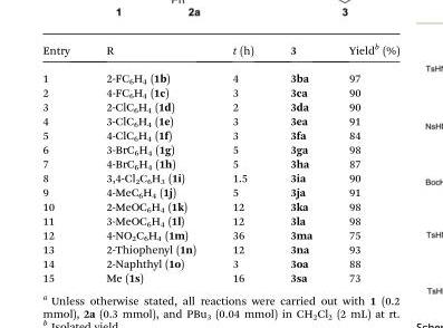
<table><thead><tr><td>Entry</td><td>R</td><td>t (h)</td><td>3</td><td>Yield<sup>b</sup> (%)</td></tr></thead><tbody><tr><td>1</td><td>2-FC<sub>6</sub>H<sub>4</sub> (1b)</td><td>4</td><td>3ba</td><td>97</td></tr><tr><td>2</td><td>4-FC<sub>6</sub>H<sub>4</sub> (1c)</td><td>3</td><td>3ca</td><td>90</td></tr><tr><td>3</td><td>2-ClC<sub>6</sub>H<sub>4</sub> (1d)</td><td>2</td><td>3da</td><td>90</td></tr><tr><td>4</td><td>3-ClC<sub>6</sub>H<sub>4</sub> (1e)</td><td>3</td><td>3ea</td><td>91</td></tr><tr><td>5</td><td>4-ClC<sub>6</sub>H<sub>4</sub> (1f)</td><td>3</td><td>3fa</td><td>84</td></tr><tr><td>6</td><td>3-BrC<sub>6</sub>H<sub>4</sub> (1g)</td><td>5</td><td>3ga</td><td>98</td></tr><tr><td>7</td><td>4-BrC<sub>6</sub>H<sub>4</sub> (1h)</td><td>5</td><td>3ha</td><td>87</td></tr><tr><td>8</td><td>3,4-Cl<sub>2</sub>C<sub>6</sub>H<sub>3</sub> (1i)</td><td>1.5</td><td>3ia</td><td>90</td></tr><tr><td>9</td><td>4-MeC<sub>6</sub>H<sub>4</sub> (1j)</td><td>5</td><td>3ja</td><td>91</td></tr><tr><td>10</td><td>2-MeOC<sub>6</sub>H<sub>4</sub> (1k)</td><td>12</td><td>3ka</td><td>98</td></tr><tr><td>11</td><td>3-MeOC<sub>6</sub>H<sub>4</sub> (1l)</td><td>12</td><td>3la</td><td>98</td></tr><tr><td>12</td><td>4-NO<sub>2</sub>C<sub>6</sub>H<sub>4</sub> (1m)</td><td>36</td><td>3ma</td><td>75</td></tr><tr><td>13</td><td>2-Thiophenyl (1n)</td><td>12</td><td>3na</td><td>93</td></tr><tr><td>14</td><td>2-Naphthyl (1o)</td><td>3</td><td>3oa</td><td>88</td></tr><tr><td>15</td><td>Me (1s)</td><td>16</td><td>3sa</td><td>73</td></tr></tbody></table>